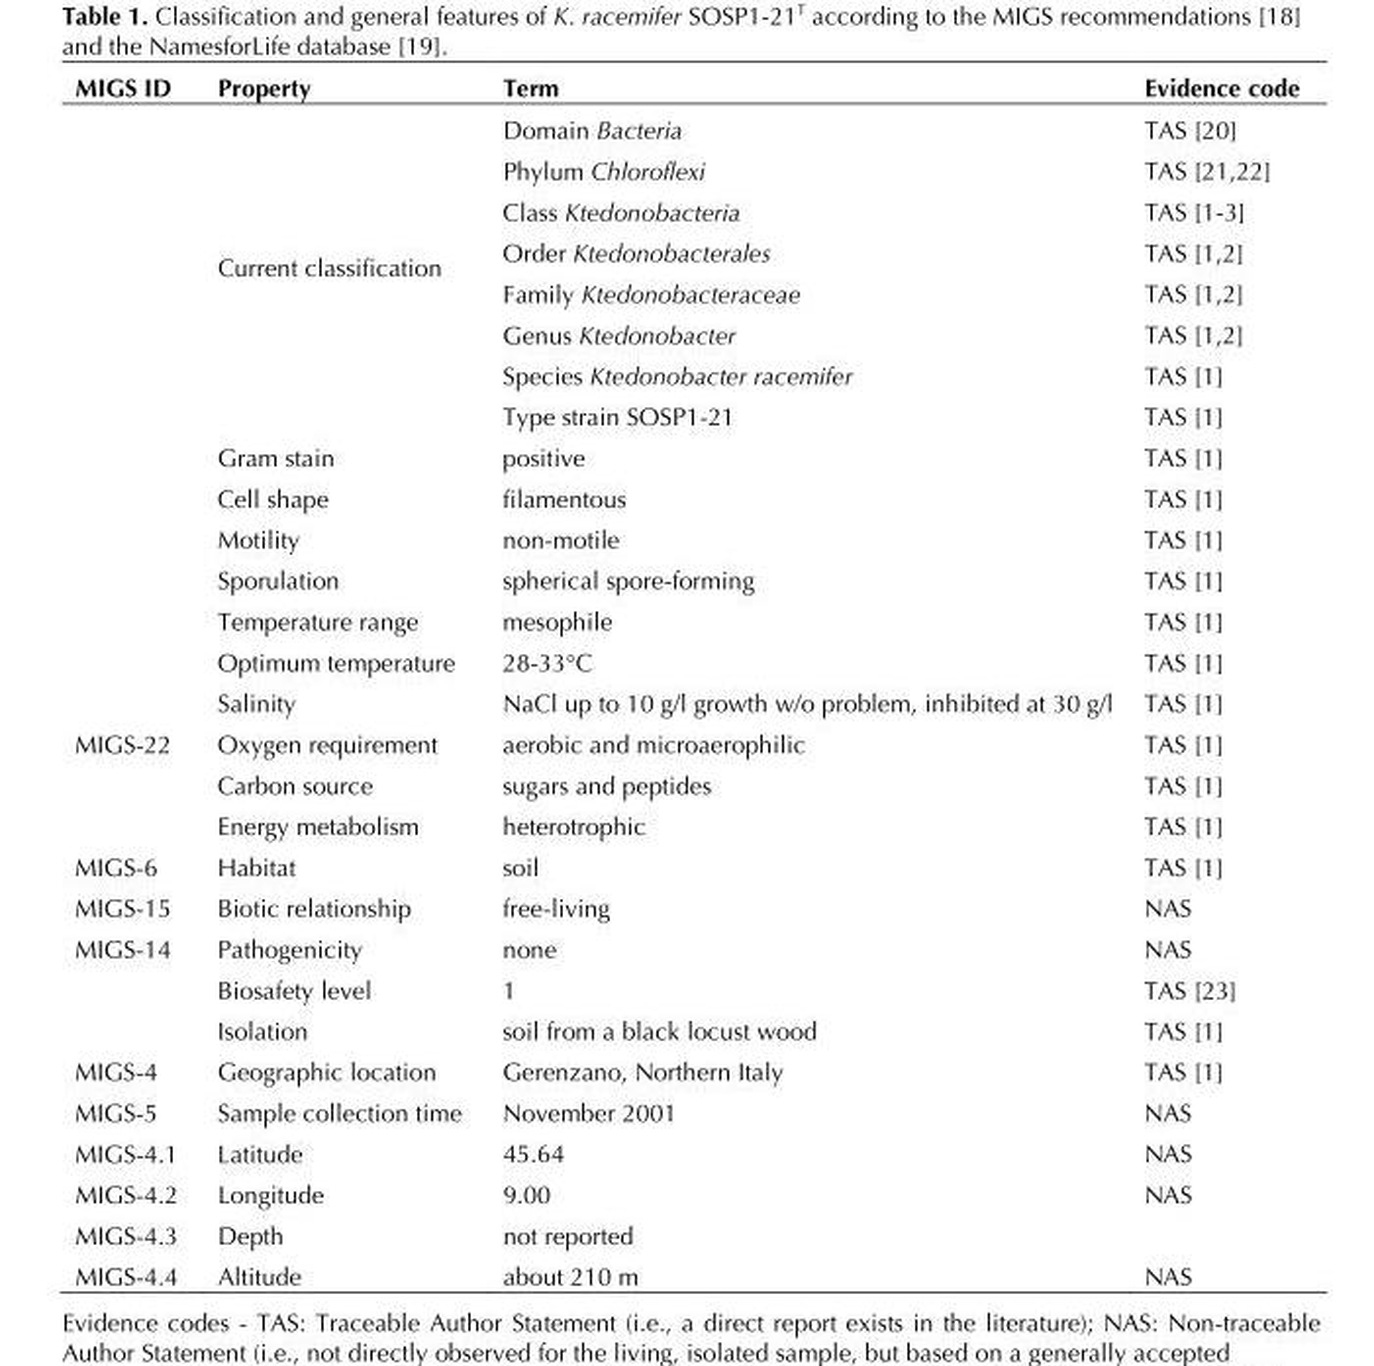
<table><thead><tr><td>MIGS ID</td><td>Property</td><td>Term</td><td>Evidence code</td></tr></thead><tbody><tr><td rowspan="8"></td><td rowspan="8">Current classification</td><td>Domain Bacteria</td><td>TAS [20]</td></tr><tr><td>Phylum Chloroflexi</td><td>TAS [21,22]</td></tr><tr><td>Class Ktedonobacteria</td><td>TAS [1-3]</td></tr><tr><td>Order Ktedonobacterales</td><td>TAS [1,2]</td></tr><tr><td>Family Ktedonobacteraceae</td><td>TAS [1,2]</td></tr><tr><td>Genus Ktedonobacter</td><td>TAS [1,2]</td></tr><tr><td>Species Ktedonobacter racemifer</td><td>TAS [1]</td></tr><tr><td>Type strain SOSP1-21</td><td>TAS [1]</td></tr><tr><td></td><td>Gram stain</td><td>positive</td><td>TAS [1]</td></tr><tr><td></td><td>Cell shape</td><td>filamentous</td><td>TAS [1]</td></tr><tr><td></td><td>Motility</td><td>non-motile</td><td>TAS [1]</td></tr><tr><td></td><td>Sporulation</td><td>spherical spore-forming</td><td>TAS [1]</td></tr><tr><td></td><td>Temperature range</td><td>mesophile</td><td>TAS [1]</td></tr><tr><td></td><td>Optimum temperature</td><td>28-33°C</td><td>TAS [1]</td></tr><tr><td></td><td>Salinity</td><td>NaCl up to 10 g/l growth w/o problem, inhibited at 30 g/l</td><td>TAS [1]</td></tr><tr><td rowspan="3">MIGS-22</td><td>Oxygen requirement</td><td>aerobic and microaerophilic</td><td>TAS [1]</td></tr><tr><td>Carbon source</td><td>sugars and peptides</td><td>TAS [1]</td></tr><tr><td>Energy metabolism</td><td>heterotrophic</td><td>TAS [1]</td></tr><tr><td>MIGS-6</td><td>Habitat</td><td>soil</td><td>TAS [1]</td></tr><tr><td>MIGS-15</td><td>Biotic relationship</td><td>free-living</td><td>NAS</td></tr><tr><td rowspan="3">MIGS-14</td><td>Pathogenicity</td><td>none</td><td>NAS</td></tr><tr><td>Biosafety level</td><td>1</td><td>TAS [23]</td></tr><tr><td>Isolation</td><td>soil from a black locust wood</td><td>TAS [1]</td></tr><tr><td>MIGS-4</td><td>Geographic location</td><td>Gerenzano, Northern Italy</td><td>TAS [1]</td></tr><tr><td>MIGS-5</td><td>Sample collection time</td><td>November 2001</td><td>NAS</td></tr><tr><td>MIGS-4.1</td><td>Latitude</td><td>45.64</td><td>NAS</td></tr><tr><td>MIGS-4.2</td><td>Longitude</td><td>9.00</td><td>NAS</td></tr><tr><td>MIGS-4.3</td><td>Depth</td><td>not reported</td><td></td></tr><tr><td>MIGS-4.4</td><td>Altitude</td><td>about 210 m</td><td>NAS</td></tr></tbody></table>